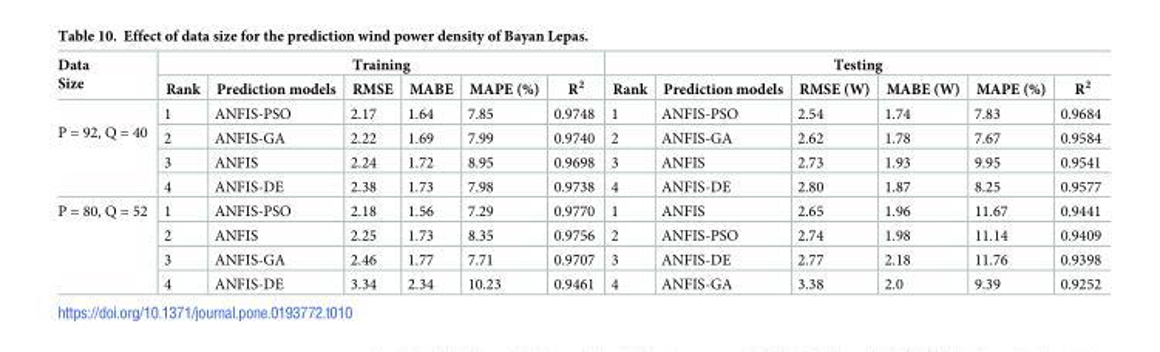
<table><thead><tr><td rowspan="2">Data Size</td><td colspan="6">Training</td><td colspan="6">Testing</td></tr><tr><td>Rank</td><td>Prediction models</td><td>RMSE</td><td>MABE</td><td>MAPE (%)</td><td>R<sup>2</sup></td><td>Rank</td><td>Prediction models</td><td>RMSE (W)</td><td>MABE (W)</td><td>MAPE (%)</td><td>R<sup>2</sup></td></tr></thead><tbody><tr><td rowspan="4">P = 92, Q = 40</td><td>1</td><td>ANFIS-PSO</td><td>2.17</td><td>1.64</td><td>7.85</td><td>0.9748</td><td>1</td><td>ANFIS-PSO</td><td>2.54</td><td>1.74</td><td>7.83</td><td>0.9684</td></tr><tr><td>2</td><td>ANFIS-GA</td><td>2.22</td><td>1.69</td><td>7.99</td><td>0.9740</td><td>2</td><td>ANFIS-GA</td><td>2.62</td><td>1.78</td><td>7.67</td><td>0.9584</td></tr><tr><td>3</td><td>ANFIS</td><td>2.24</td><td>1.72</td><td>8.95</td><td>0.9698</td><td>3</td><td>ANFIS</td><td>2.73</td><td>1.93</td><td>9.95</td><td>0.9541</td></tr><tr><td>4</td><td>ANFIS-DE</td><td>2.38</td><td>1.73</td><td>7.98</td><td>0.9738</td><td>4</td><td>ANFIS-DE</td><td>2.80</td><td>1.87</td><td>8.25</td><td>0.9577</td></tr><tr><td rowspan="4">P = 80, Q = 52</td><td>1</td><td>ANFIS-PSO</td><td>2.18</td><td>1.56</td><td>7.29</td><td>0.9770</td><td>1</td><td>ANFIS</td><td>2.65</td><td>1.96</td><td>11.67</td><td>0.9441</td></tr><tr><td>2</td><td>ANFIS</td><td>2.25</td><td>1.73</td><td>8.35</td><td>0.9756</td><td>2</td><td>ANFIS-PSO</td><td>2.74</td><td>1.98</td><td>11.14</td><td>0.9409</td></tr><tr><td>3</td><td>ANFIS-GA</td><td>2.46</td><td>1.77</td><td>7.71</td><td>0.9707</td><td>3</td><td>ANFIS-DE</td><td>2.77</td><td>2.18</td><td>11.76</td><td>0.9398</td></tr><tr><td>4</td><td>ANFIS-DE</td><td>3.34</td><td>2.34</td><td>10.23</td><td>0.9461</td><td>4</td><td>ANFIS-GA</td><td>3.38</td><td>2.0</td><td>9.39</td><td>0.9252</td></tr></tbody></table>